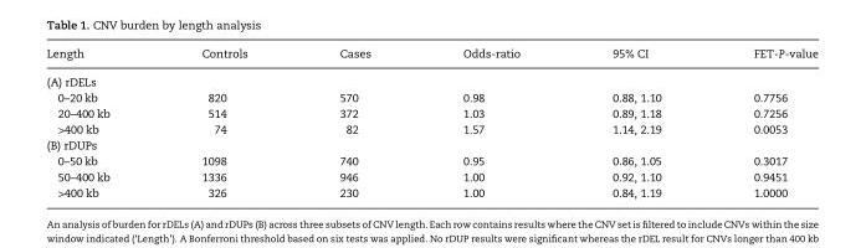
<table><thead><tr><td>Length</td><td>Controls</td><td>Cases</td><td>Odds-ratio</td><td>95% CI</td><td>FET-P-value</td></tr></thead><tbody><tr><td colspan="6">(A) rDELs</td></tr><tr><td>0–20 kb</td><td>820</td><td>570</td><td>0.98</td><td>0.88, 1.10</td><td>0.7756</td></tr><tr><td>20–400 kb</td><td>514</td><td>372</td><td>1.03</td><td>0.89, 1.18</td><td>0.7256</td></tr><tr><td>&gt;400 kb</td><td>74</td><td>82</td><td>1.57</td><td>1.14, 2.19</td><td>0.0053</td></tr><tr><td colspan="6">(B) rDUPs</td></tr><tr><td>0–50 kb</td><td>1098</td><td>740</td><td>0.95</td><td>0.86, 1.05</td><td>0.3017</td></tr><tr><td>50–400 kb</td><td>1336</td><td>946</td><td>1.00</td><td>0.92, 1.10</td><td>0.9451</td></tr><tr><td>&gt;400 kb</td><td>326</td><td>230</td><td>1.00</td><td>0.84, 1.19</td><td>1.0000</td></tr></tbody></table>